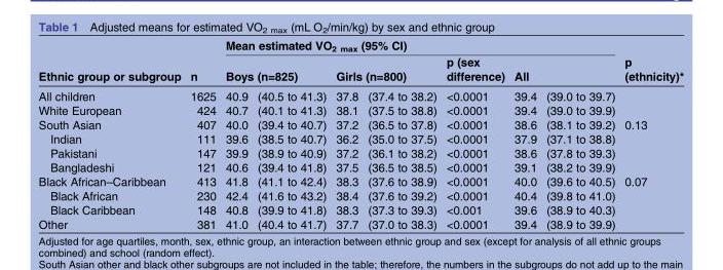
<table><thead><tr><td rowspan="3">Ethnic group or subgroup All children</td><td rowspan="3">n 1625</td><td colspan="7">Mean estimated VO<sub>2 max</sub> (95% CI)</td><td rowspan="3">p (ethnicity)*</td></tr><tr><td colspan="2">Boys (n=825)</td><td colspan="2">Girls (n=800)</td><td rowspan="2">p (sex difference) &lt;0.0001</td><td colspan="2">All</td></tr><tr><td>40.9</td><td>(40.5 to 41.3)</td><td>37.8</td><td>(37.4 to 38.2)</td><td>39.4</td><td>(39.0 to 39.7)</td></tr></thead><tbody><tr><td>White European</td><td>424</td><td>40.7</td><td>(40.1 to 41.3)</td><td>38.1</td><td>(37.5 to 38.8)</td><td>&lt;0.0001</td><td>39.4</td><td>(39.0 to 39.9)</td><td></td></tr><tr><td>South Asian</td><td>407</td><td>40.0</td><td>(39.4 to 40.7)</td><td>37.2</td><td>(36.5 to 37.8)</td><td>&lt;0.0001</td><td>38.6</td><td>(38.1 to 39.2)</td><td>0.13</td></tr><tr><td>Indian</td><td>111</td><td>39.6</td><td>(38.5 to 40.7)</td><td>36.2</td><td>(35.0 to 37.5)</td><td>&lt;0.0001</td><td>37.9</td><td>(37.1 to 38.8)</td><td></td></tr><tr><td>Pakistani</td><td>147</td><td>39.9</td><td>(38.9 to 40.9)</td><td>37.2</td><td>(36.1 to 38.2)</td><td>&lt;0.0001</td><td>38.6</td><td>(37.8 to 39.3)</td><td></td></tr><tr><td>Bangladeshi</td><td>121</td><td>40.6</td><td>(39.4 to 41.8)</td><td>37.5</td><td>(36.5 to 38.5)</td><td>&lt;0.0001</td><td>39.1</td><td>(38.2 to 39.9)</td><td></td></tr><tr><td>Black African–Caribbean</td><td>413</td><td>41.8</td><td>(41.1 to 42.4)</td><td>38.3</td><td>(37.6 to 38.9)</td><td>&lt;0.0001</td><td>40.0</td><td>(39.6 to 40.5)</td><td>0.07</td></tr><tr><td>Black African</td><td>230</td><td>42.4</td><td>(41.6 to 43.2)</td><td>38.4</td><td>(37.6 to 39.2)</td><td>&lt;0.0001</td><td>40.4</td><td>(39.8 to 41.0)</td><td></td></tr><tr><td>Black Caribbean</td><td>148</td><td>40.8</td><td>(39.9 to 41.8)</td><td>38.3</td><td>(37.3 to 39.3)</td><td>&lt;0.001</td><td>39.6</td><td>(38.9 to 40.3)</td><td></td></tr><tr><td>Other</td><td>381</td><td>41.0</td><td>(40.4 to 41.7)</td><td>37.7</td><td>(37.0 to 38.3)</td><td>&lt;0.0001</td><td>39.4</td><td>(38.9 to 39.9)</td><td></td></tr></tbody></table>